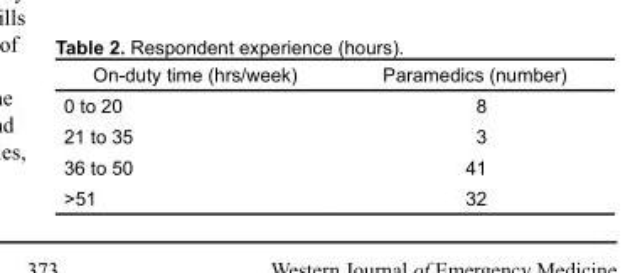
<table><thead><tr><td>On-duty time (hrs/week)</td><td>Paramedics (number)</td></tr></thead><tbody><tr><td>0 to 20</td><td>8</td></tr><tr><td>21 to 35</td><td>3</td></tr><tr><td>36 to 50</td><td>41</td></tr><tr><td>&gt;51</td><td>32</td></tr></tbody></table>